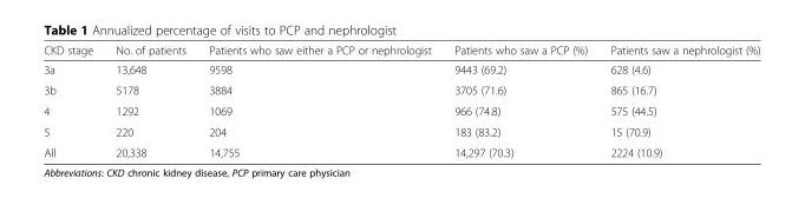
<table><thead><tr><td>CKD stage</td><td>No. of patients</td><td>Patients who saw either a PCP or nephrologist</td><td>Patients who saw a PCP (%)</td><td>Patients saw a nephrologist (%)</td></tr></thead><tbody><tr><td>3a</td><td>13,648</td><td>9598</td><td>9443 (69.2)</td><td>628 (4.6)</td></tr><tr><td>3b</td><td>5178</td><td>3884</td><td>3705 (71.6)</td><td>865 (16.7)</td></tr><tr><td>4</td><td>1292</td><td>1069</td><td>966 (74.8)</td><td>575 (44.5)</td></tr><tr><td>5</td><td>220</td><td>204</td><td>183 (83.2)</td><td>15 (70.9)</td></tr><tr><td>All</td><td>20,338</td><td>14,755</td><td>14,297 (70.3)</td><td>2224 (10.9)</td></tr></tbody></table>